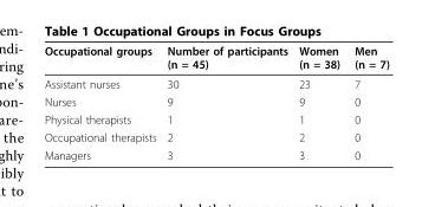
<table><thead><tr><td>Occupational groups</td><td>Number of participants (n = 45)</td><td>Women (n = 38)</td><td>Men (n = 7)</td></tr></thead><tbody><tr><td>Assistant nurses</td><td>30</td><td>23</td><td>7</td></tr><tr><td>Nurses</td><td>9</td><td>9</td><td>0</td></tr><tr><td>Physical therapists</td><td>1</td><td>1</td><td>0</td></tr><tr><td>Occupational therapists</td><td>2</td><td>2</td><td>0</td></tr><tr><td>Managers</td><td>3</td><td>3</td><td>0</td></tr></tbody></table>